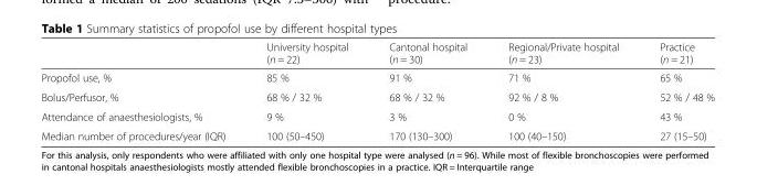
<table><thead><tr><td></td><td>University hospital (n = 22)</td><td>Cantonal hospital (n = 30)</td><td>Regional/Private hospital (n = 23)</td><td>Practice (n = 21)</td></tr></thead><tbody><tr><td>Propofol use, %</td><td>85 %</td><td>91 %</td><td>71 %</td><td>65 %</td></tr><tr><td>Bolus/Perfusor, %</td><td>68 % / 32 %</td><td>68 % / 32 %</td><td>92 % / 8 %</td><td>52 % / 48 %</td></tr><tr><td>Attendance of anaesthesiologists, %</td><td>9 %</td><td>3 %</td><td>0 %</td><td>43 %</td></tr><tr><td>Median number of procedures/year (IQR)</td><td>100 (50–450)</td><td>170 (130–300)</td><td>100 (40–150)</td><td>27 (15–50)</td></tr></tbody></table>